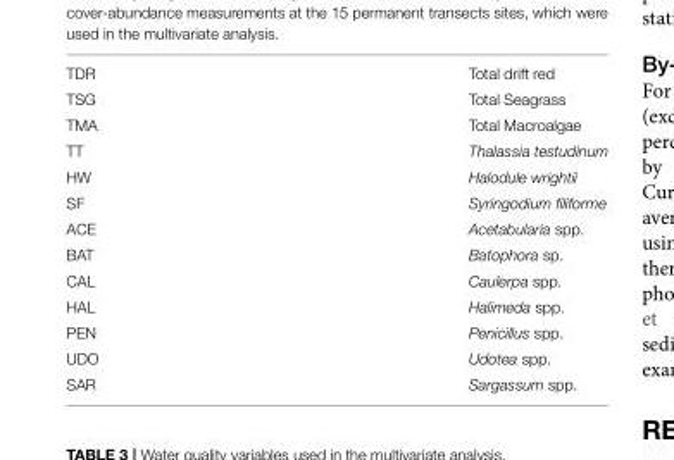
<table><tbody><tr><td>TDR</td><td>Total drift red</td></tr><tr><td>TSG</td><td>Total Seagrass</td></tr><tr><td>TMA</td><td>Total Macroalgae</td></tr><tr><td>TT</td><td>Thalassia testudinum</td></tr><tr><td>HW</td><td>Halodule wrightii</td></tr><tr><td>SF</td><td>Syringodium filiforme</td></tr><tr><td>ACE</td><td>Acetabularia spp.</td></tr><tr><td>BAT</td><td>Batophora sp.</td></tr><tr><td>CAL</td><td>Caulerpa spp.</td></tr><tr><td>HAL</td><td>Halimeda spp.</td></tr><tr><td>PEN</td><td>Penicillus spp.</td></tr><tr><td>UDO</td><td>Udotea spp.</td></tr><tr><td>SAR</td><td>Sargassum spp.</td></tr></tbody></table>